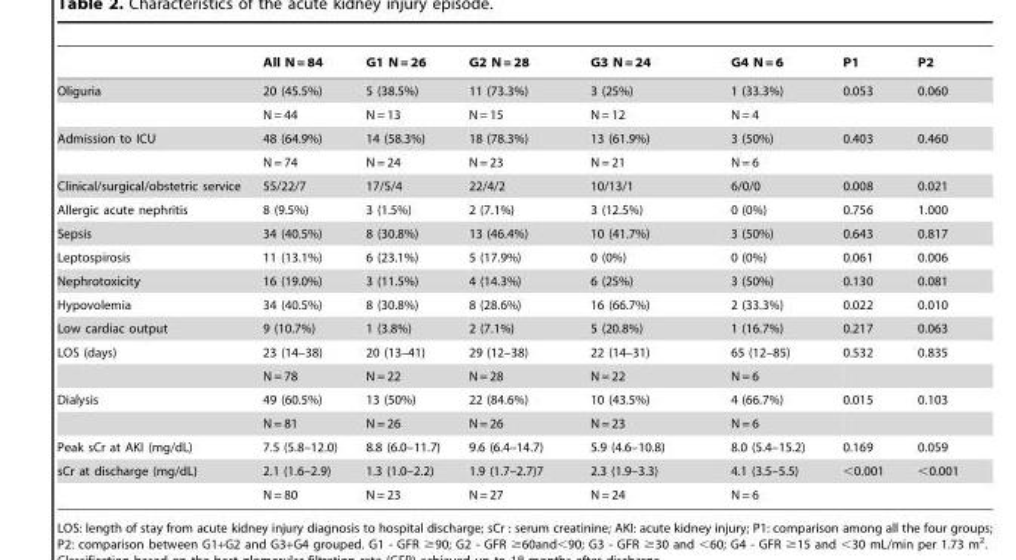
<table><thead><tr><td></td><td>All N = 84</td><td>G1 N = 26</td><td>G2 N = 28</td><td>G3 N = 24</td><td>G4 N = 6</td><td>P1</td><td>P2</td></tr></thead><tbody><tr><td rowspan="2">Oliguria</td><td>20 (45.5%)</td><td>5 (38.5%)</td><td>11 (73.3%)</td><td>3 (25%)</td><td>1 (33.3%)</td><td>0.053</td><td>0.060</td></tr><tr><td>N = 44</td><td>N = 13</td><td>N = 15</td><td>N = 12</td><td>N = 4</td><td></td><td></td></tr><tr><td rowspan="2">Admission to ICU</td><td>48 (64.9%)</td><td>14 (58.3%)</td><td>18 (78.3%)</td><td>13 (61.9%)</td><td>3 (50%)</td><td>0.403</td><td>0.460</td></tr><tr><td>N = 74</td><td>N = 24</td><td>N = 23</td><td>N = 21</td><td>N = 6</td><td></td><td></td></tr><tr><td>Clinical/surgical/obstetric service</td><td>55/22/7</td><td>17/5/4</td><td>22/4/2</td><td>10/13/1</td><td>6/0/0</td><td>0.008</td><td>0.021</td></tr><tr><td>Allergic acute nephritis</td><td>8 (9.5%)</td><td>3 (1.5%)</td><td>2 (7.1%)</td><td>3 (12.5%)</td><td>0 (0%)</td><td>0.756</td><td>1.000</td></tr><tr><td>Sepsis</td><td>34 (40.5%)</td><td>8 (30.8%)</td><td>13 (46.4%)</td><td>10 (41.7%)</td><td>3 (50%)</td><td>0.643</td><td>0.817</td></tr><tr><td>Leptospirosis</td><td>11 (13.1%)</td><td>6 (23.1%)</td><td>5 (17.9%)</td><td>0 (0%)</td><td>0 (0%)</td><td>0.061</td><td>0.006</td></tr><tr><td>Nephrotoxicity</td><td>16 (19.0%)</td><td>3 (11.5%)</td><td>4 (14.3%)</td><td>6 (25%)</td><td>3 (50%)</td><td>0.130</td><td>0.081</td></tr><tr><td>Hypovolemia</td><td>34 (40.5%)</td><td>8 (30.8%)</td><td>8 (28.6%)</td><td>16 (66.7%)</td><td>2 (33.3%)</td><td>0.022</td><td>0.010</td></tr><tr><td>Low cardiac output</td><td>9 (10.7%)</td><td>1 (3.8%)</td><td>2 (7.1%)</td><td>5 (20.8%)</td><td>1 (16.7%)</td><td>0.217</td><td>0.063</td></tr><tr><td rowspan="2">LOS (days)</td><td>23 (14–38)</td><td>20 (13–41)</td><td>29 (12–38)</td><td>22 (14–31)</td><td>65 (12–85)</td><td>0.532</td><td>0.835</td></tr><tr><td>N = 78</td><td>N = 22</td><td>N = 28</td><td>N = 22</td><td>N = 6</td><td></td><td></td></tr><tr><td rowspan="2">Dialysis</td><td>49 (60.5%)</td><td>13 (50%)</td><td>22 (84.6%)</td><td>10 (43.5%)</td><td>4 (66.7%)</td><td>0.015</td><td>0.103</td></tr><tr><td>N = 81</td><td>N = 26</td><td>N = 26</td><td>N = 23</td><td>N = 6</td><td></td><td></td></tr><tr><td>Peak sCr at AKI (mg/dL)</td><td>7.5 (5.8–12.0)</td><td>8.8 (6.0–11.7)</td><td>9.6 (6.4–14.7)</td><td>5.9 (4.6–10.8)</td><td>8.0 (5.4–15.2)</td><td>0.169</td><td>0.059</td></tr><tr><td rowspan="2">sCr at discharge (mg/dL)</td><td>2.1 (1.6–2.9)</td><td>1.3 (1.0–2.2)</td><td>1.9 (1.7–2.7)7</td><td>2.3 (1.9–3.3)</td><td>4.1 (3.5–5.5)</td><td>&lt;0.001</td><td>&lt;0.001</td></tr><tr><td>N = 80</td><td>N = 23</td><td>N = 27</td><td>N = 24</td><td>N = 6</td><td></td><td></td></tr></tbody></table>